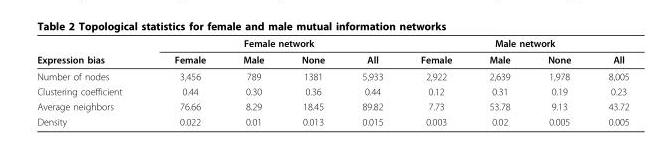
<table><thead><tr><td rowspan="2">Expression bias</td><td colspan="4">Female network</td><td colspan="4">Male network</td></tr><tr><td>Female</td><td>Male</td><td>None</td><td>All</td><td>Female</td><td>Male</td><td>None</td><td>All</td></tr></thead><tbody><tr><td>Number of nodes</td><td>3,456</td><td>789</td><td>1381</td><td>5,933</td><td>2,922</td><td>2,639</td><td>1,978</td><td>8,005</td></tr><tr><td>Clustering coefficient</td><td>0.44</td><td>0.30</td><td>0.36</td><td>0.44</td><td>0.12</td><td>0.31</td><td>0.19</td><td>0.23</td></tr><tr><td>Average neighbors</td><td>76.66</td><td>8.29</td><td>18.45</td><td>89.82</td><td>7.73</td><td>53.78</td><td>9.13</td><td>43.72</td></tr><tr><td>Density</td><td>0.022</td><td>0.01</td><td>0.013</td><td>0.015</td><td>0.003</td><td>0.02</td><td>0.005</td><td>0.005</td></tr></tbody></table>